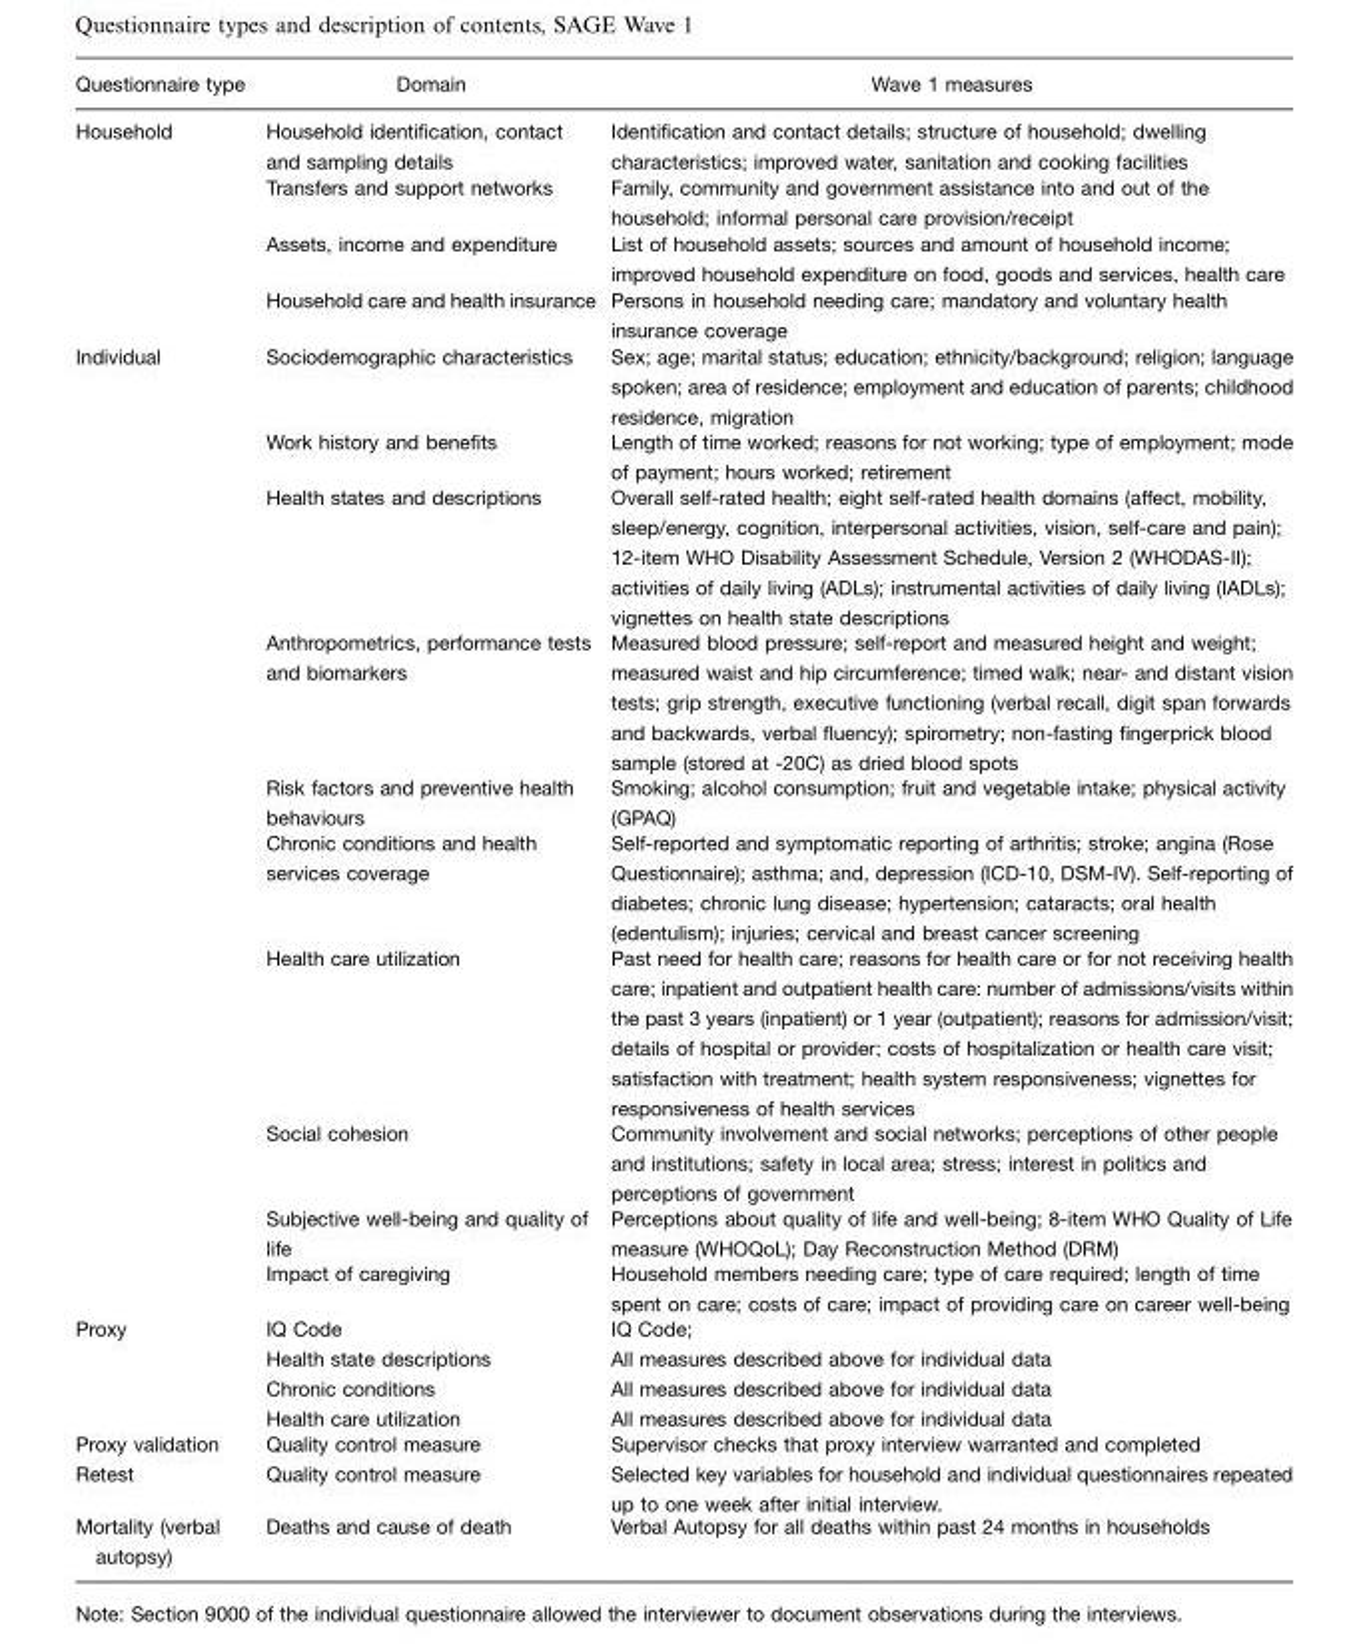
<table><thead><tr><td>Questionnaire type</td><td>Domain</td><td>Wave 1 measures</td></tr></thead><tbody><tr><td rowspan="4">Household</td><td>Household identification, contact and sampling details</td><td>Identification and contact details; structure of household; dwelling characteristics; improved water, sanitation and cooking facilities</td></tr><tr><td>Transfers and support networks</td><td>Family, community and government assistance into and out of the household; informal personal care provision/receipt</td></tr><tr><td>Assets, income and expenditure</td><td>List of household assets; sources and amount of household income; improved household expenditure on food, goods and services, health care</td></tr><tr><td>Household care and health insurance</td><td>Persons in household needing care; mandatory and voluntary health insurance coverage</td></tr><tr><td rowspan="10">Individual</td><td>Sociodemographic characteristics</td><td>Sex; age; marital status; education; ethnicity/background; religion; language spoken; area of residence; employment and education of parents; childhood residence, migration</td></tr><tr><td>Work history and benefits</td><td>Length of time worked; reasons for not working; type of employment; mode of payment; hours worked; retirement</td></tr><tr><td>Health states and descriptions</td><td>Overall self-rated health; eight self-rated health domains (affect, mobility, sleep/energy, cognition, interpersonal activities, vision, self-care and pain); 12-item WHO Disability Assessment Schedule, Version 2 (WHODAS-II); activities of daily living (ADLs); instrumental activities of daily living (IADLs); vignettes on health state descriptions</td></tr><tr><td>Anthropometrics, performance tests and biomarkers</td><td>Measured blood pressure; self-report and measured height and weight; measured waist and hip circumference; timed walk; near- and distant vision tests; grip strength, executive functioning (verbal recall, digit span forwards and backwards, verbal fluency); spirometry; non-fasting fingerprick blood sample (stored at -20C) as dried blood spots</td></tr><tr><td>Risk factors and preventive health behaviours</td><td>Smoking; alcohol consumption; fruit and vegetable intake; physical activity (GPAQ)</td></tr><tr><td>Chronic conditions and health services coverage</td><td>Self-reported and symptomatic reporting of arthritis; stroke; angina (Rose Questionnaire); asthma; and, depression (ICD-10, DSM-IV). Self-reporting of diabetes; chronic lung disease; hypertension; cataracts; oral health (edentulism); injuries; cervical and breast cancer screening</td></tr><tr><td>Health care utilization</td><td>Past need for health care; reasons for health care or for not receiving health care; inpatient and outpatient health care: number of admissions/visits within the past 3 years (inpatient) or 1 year (outpatient); reasons for admission/visit; details of hospital or provider; costs of hospitalization or health care visit; satisfaction with treatment; health system responsiveness; vignettes for responsiveness of health services</td></tr><tr><td>Social cohesion</td><td>Community involvement and social networks; perceptions of other people and institutions; safety in local area; stress; interest in politics and perceptions of government</td></tr><tr><td>Subjective well-being and quality of life</td><td>Perceptions about quality of life and well-being; 8-item WHO Quality of Life measure (WHOQoL); Day Reconstruction Method (DRM)</td></tr><tr><td>Impact of caregiving</td><td>Household members needing care; type of care required; length of time spent on care; costs of care; impact of providing care on career well-being</td></tr><tr><td rowspan="4">Proxy</td><td>IQ Code</td><td>IQ Code;</td></tr><tr><td>Health state descriptions</td><td>All measures described above for individual data</td></tr><tr><td>Chronic conditions</td><td>All measures described above for individual data</td></tr><tr><td>Health care utilization</td><td>All measures described above for individual data</td></tr><tr><td>Proxy validation</td><td>Quality control measure</td><td>Supervisor checks that proxy interview warranted and completed</td></tr><tr><td>Retest</td><td>Quality control measure</td><td>Selected key variables for household and individual questionnaires repeated up to one week after initial interview.</td></tr><tr><td>Mortality (verbal autopsy)</td><td>Deaths and cause of death</td><td>Verbal Autopsy for all deaths within past 24 months in households</td></tr></tbody></table>